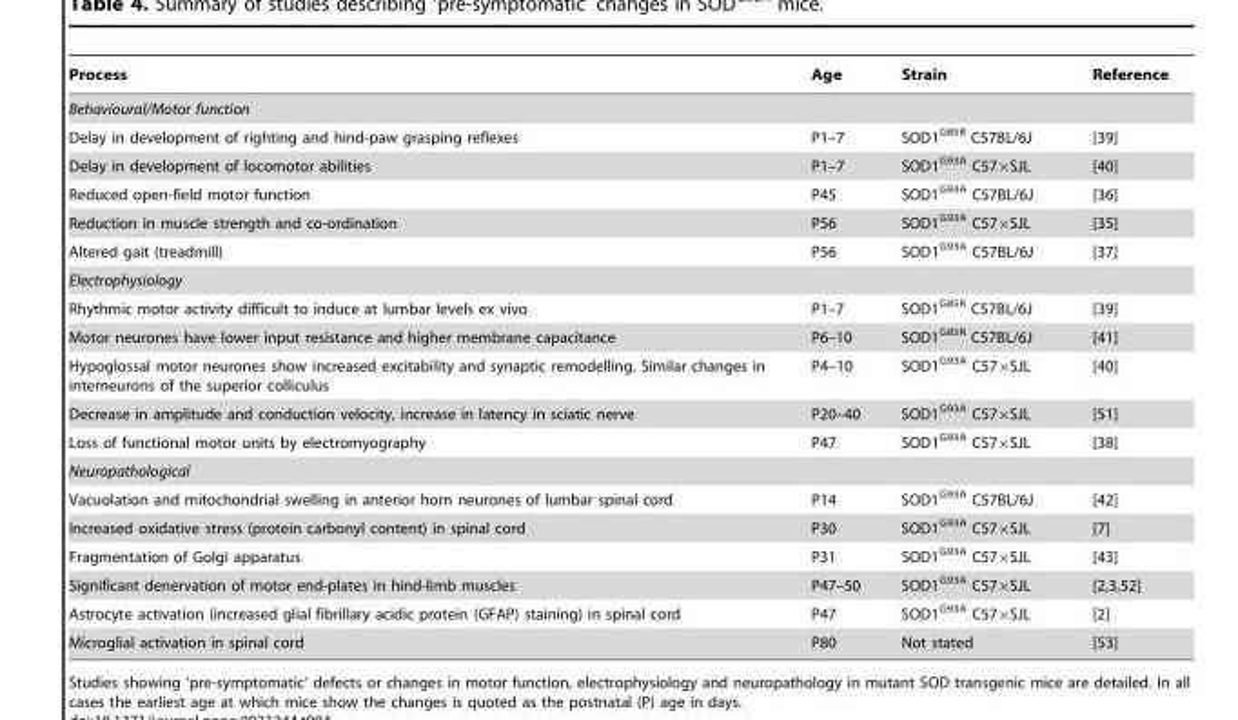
<table><thead><tr><td>Process</td><td>Age</td><td>Strain</td><td>Reference</td></tr></thead><tbody><tr><td colspan="4">Behavioural/Motor function</td></tr><tr><td>Delay in development of righting and hind-paw grasping reflexes</td><td>P1–7</td><td>SOD1<sup>G85R</sup> C57BL/6J</td><td>[39]</td></tr><tr><td>Delay in development of locomotor abilities</td><td>P1–7</td><td>SOD1<sup>G93A</sup> C57×SJL</td><td>[40]</td></tr><tr><td>Reduced open-field motor function</td><td>P45</td><td>SOD1<sup>G93A</sup> C57BL/6J</td><td>[36]</td></tr><tr><td>Reduction in muscle strength and co-ordination</td><td>P56</td><td>SOD1<sup>G93A</sup> C57×SJL</td><td>[35]</td></tr><tr><td>Altered gait (treadmill)</td><td>P56</td><td>SOD1<sup>G93A</sup> C57BL/6J</td><td>[37]</td></tr><tr><td colspan="4">Electrophysiology</td></tr><tr><td>Rhythmic motor activity difficult to induce at lumbar levels ex vivo</td><td>P1–7</td><td>SOD1<sup>G85R</sup> C57BL/6J</td><td>[39]</td></tr><tr><td>Motor neurones have lower input resistance and higher membrane capacitance</td><td>P6–10</td><td>SOD1<sup>G85R</sup> C57BL/6J</td><td>[41]</td></tr><tr><td>Hypoglossal motor neurones show increased excitability and synaptic remodelling. Similar changes in interneurons of the superior colliculus</td><td>P4–10</td><td>SOD1<sup>G93A</sup> C57×SJL</td><td>[40]</td></tr><tr><td>Decrease in amplitude and conduction velocity, increase in latency in sciatic nerve</td><td>P20–40</td><td>SOD1<sup>G93A</sup> C57×SJL</td><td>[51]</td></tr><tr><td>Loss of functional motor units by electromyography</td><td>P47</td><td>SOD1<sup>G93A</sup> C57×SJL</td><td>[38]</td></tr><tr><td colspan="4">Neuropathological</td></tr><tr><td>Vacuolation and mitochondrial swelling in anterior horn neurones of lumbar spinal cord</td><td>P14</td><td>SOD1<sup>G93A</sup> C57BL/6J</td><td>[42]</td></tr><tr><td>Increased oxidative stress (protein carbonyl content) in spinal cord</td><td>P30</td><td>SOD1<sup>G93A</sup> C57×SJL</td><td>[7]</td></tr><tr><td>Fragmentation of Golgi apparatus</td><td>P31</td><td>SOD1<sup>G93A</sup> C57×SJL</td><td>[43]</td></tr><tr><td>Significant denervation of motor end-plates in hind-limb muscles</td><td>P47–50</td><td>SOD1<sup>G93A</sup> C57×SJL</td><td>[2,3,52]</td></tr><tr><td>Astrocyte activation (increased glial fibrillary acidic protein (GFAP) staining) in spinal cord</td><td>P47</td><td>SOD1<sup>G93A</sup> C57×SJL</td><td>[2]</td></tr><tr><td>Microglial activation in spinal cord</td><td>P80</td><td>Not stated</td><td>[53]</td></tr></tbody></table>